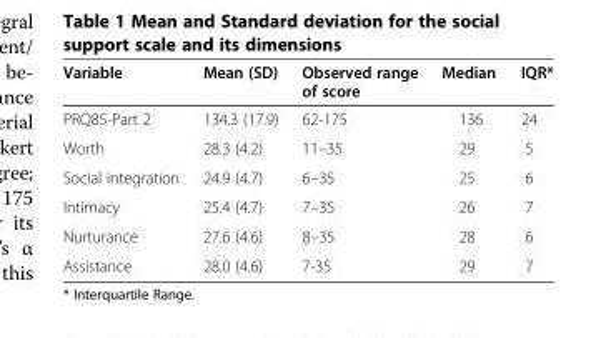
<table><thead><tr><td>Variable</td><td>Mean (SD)</td><td>Observed range of score</td><td>Median</td><td>IQR*</td></tr></thead><tbody><tr><td>PRQ85-Part 2</td><td>134.3 (17.9)</td><td>62-175</td><td>136</td><td>24</td></tr><tr><td>Worth</td><td>28.3 (4.2)</td><td>11–35</td><td>29</td><td>5</td></tr><tr><td>Social integration</td><td>24.9 (4.7)</td><td>6–35</td><td>25</td><td>6</td></tr><tr><td>Intimacy</td><td>25.4 (4.7)</td><td>7–35</td><td>26</td><td>7</td></tr><tr><td>Nurturance</td><td>27.6 (4.6)</td><td>8–35</td><td>28</td><td>6</td></tr><tr><td>Assistance</td><td>28.0 (4.6)</td><td>7-35</td><td>29</td><td>7</td></tr></tbody></table>